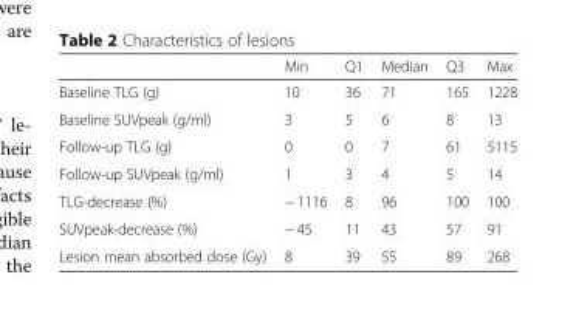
<table><thead><tr><td></td><td>Min</td><td>Q1</td><td>Median</td><td>Q3</td><td>Max</td></tr></thead><tbody><tr><td>Baseline TLG (g)</td><td>10</td><td>36</td><td>71</td><td>165</td><td>1228</td></tr><tr><td>Baseline SUVpeak (g/ml)</td><td>3</td><td>5</td><td>6</td><td>8</td><td>13</td></tr><tr><td>Follow-up TLG (g)</td><td>0</td><td>0</td><td>7</td><td>61</td><td>5115</td></tr><tr><td>Follow-up SUVpeak (g/ml)</td><td>1</td><td>3</td><td>4</td><td>5</td><td>14</td></tr><tr><td>TLG-decrease (%)</td><td>− 1116</td><td>8</td><td>96</td><td>100</td><td>100</td></tr><tr><td>SUVpeak-decrease (%)</td><td>− 45</td><td>11</td><td>43</td><td>57</td><td>91</td></tr><tr><td>Lesion mean absorbed dose (Gy)</td><td>8</td><td>39</td><td>55</td><td>89</td><td>268</td></tr></tbody></table>